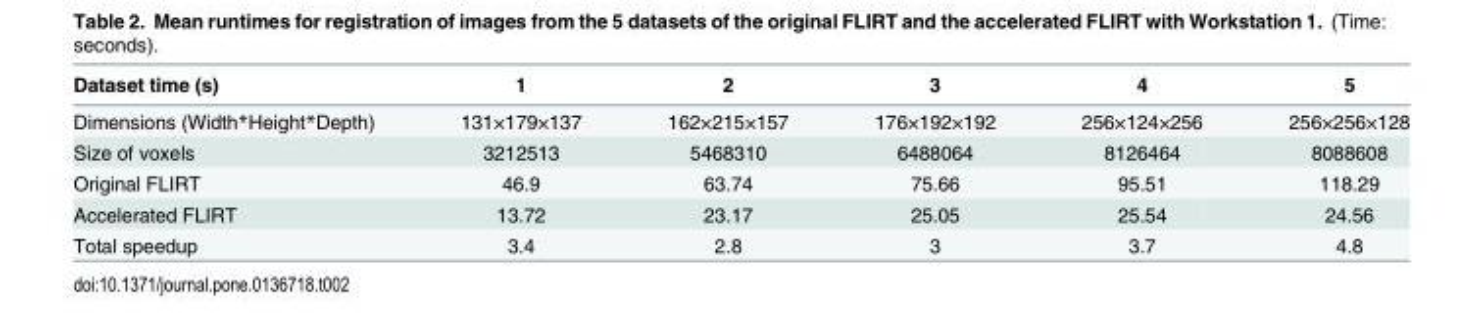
<table><thead><tr><td>Dataset time (s)</td><td>1</td><td>2</td><td>3</td><td>4</td><td>5</td></tr></thead><tbody><tr><td>Dimensions (Width*Height*Depth)</td><td>131×179×137</td><td>162×215×157</td><td>176×192×192</td><td>256×124×256</td><td>256×256×128</td></tr><tr><td>Size of voxels</td><td>3212513</td><td>5468310</td><td>6488064</td><td>8126464</td><td>8088608</td></tr><tr><td>Original FLIRT</td><td>46.9</td><td>63.74</td><td>75.66</td><td>95.51</td><td>118.29</td></tr><tr><td>Accelerated FLIRT</td><td>13.72</td><td>23.17</td><td>25.05</td><td>25.54</td><td>24.56</td></tr><tr><td>Total speedup</td><td>3.4</td><td>2.8</td><td>3</td><td>3.7</td><td>4.8</td></tr></tbody></table>